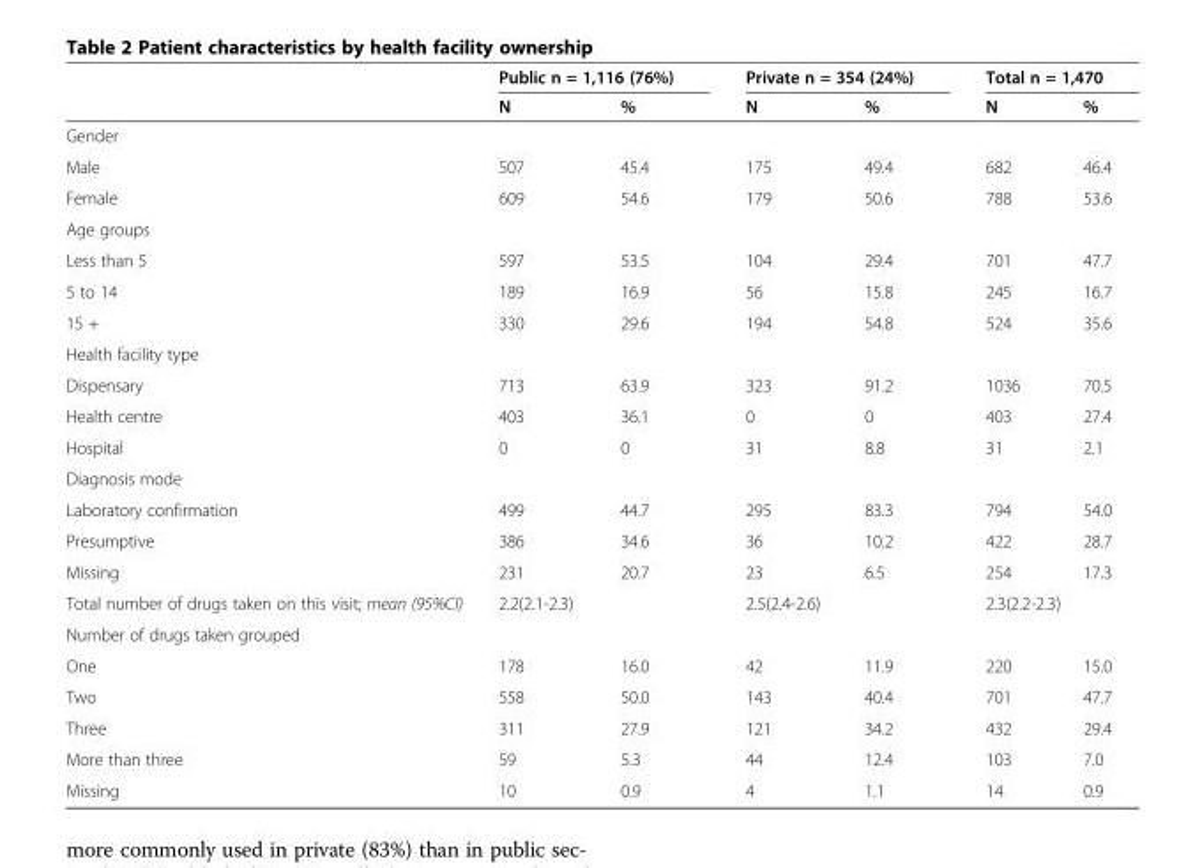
<table><thead><tr><td rowspan="2"></td><td colspan="2">Public n = 1,116 (76%)</td><td colspan="2">Private n = 354 (24%)</td><td colspan="2">Total n = 1,470</td></tr><tr><td>N</td><td>%</td><td>N</td><td>%</td><td>N</td><td>%</td></tr></thead><tbody><tr><td colspan="7">Gender</td></tr><tr><td>Male</td><td>507</td><td>45.4</td><td>175</td><td>49.4</td><td>682</td><td>46.4</td></tr><tr><td>Female</td><td>609</td><td>54.6</td><td>179</td><td>50.6</td><td>788</td><td>53.6</td></tr><tr><td colspan="7">Age groups</td></tr><tr><td>Less than 5</td><td>597</td><td>53.5</td><td>104</td><td>29.4</td><td>701</td><td>47.7</td></tr><tr><td>5 to 14</td><td>189</td><td>16.9</td><td>56</td><td>15.8</td><td>245</td><td>16.7</td></tr><tr><td>15 +</td><td>330</td><td>29.6</td><td>194</td><td>54.8</td><td>524</td><td>35.6</td></tr><tr><td colspan="7">Health facility type</td></tr><tr><td>Dispensary</td><td>713</td><td>63.9</td><td>323</td><td>91.2</td><td>1036</td><td>70.5</td></tr><tr><td>Health centre</td><td>403</td><td>36.1</td><td>0</td><td>0</td><td>403</td><td>27.4</td></tr><tr><td>Hospital</td><td>0</td><td>0</td><td>31</td><td>8.8</td><td>31</td><td>2.1</td></tr><tr><td colspan="7">Diagnosis mode</td></tr><tr><td>Laboratory confirmation</td><td>499</td><td>44.7</td><td>295</td><td>83.3</td><td>794</td><td>54.0</td></tr><tr><td>Presumptive</td><td>386</td><td>34.6</td><td>36</td><td>10.2</td><td>422</td><td>28.7</td></tr><tr><td>Missing</td><td>231</td><td>20.7</td><td>23</td><td>6.5</td><td>254</td><td>17.3</td></tr><tr><td>Total number of drugs taken on this visit; mean (95%CI)</td><td colspan="2">2.2(2.1-2.3)</td><td colspan="2">2.5(2.4-2.6)</td><td colspan="2">2.3(2.2-2.3)</td></tr><tr><td colspan="7">Number of drugs taken grouped</td></tr><tr><td>One</td><td>178</td><td>16.0</td><td>42</td><td>11.9</td><td>220</td><td>15.0</td></tr><tr><td>Two</td><td>558</td><td>50.0</td><td>143</td><td>40.4</td><td>701</td><td>47.7</td></tr><tr><td>Three</td><td>311</td><td>27.9</td><td>121</td><td>34.2</td><td>432</td><td>29.4</td></tr><tr><td>More than three</td><td>59</td><td>5.3</td><td>44</td><td>12.4</td><td>103</td><td>7.0</td></tr><tr><td>Missing</td><td>10</td><td>0.9</td><td>4</td><td>1.1</td><td>14</td><td>0.9</td></tr></tbody></table>